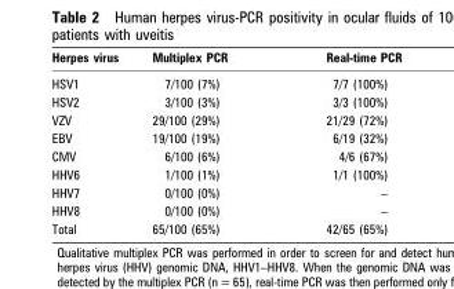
<table><thead><tr><td>Herpes virus</td><td>Multiplex PCR</td><td>Real-time PCR</td></tr></thead><tbody><tr><td>HSV1</td><td>7/100 (7%)</td><td>7/7 (100%)</td></tr><tr><td>HSV2</td><td>3/100 (3%)</td><td>3/3 (100%)</td></tr><tr><td>VZV</td><td>29/100 (29%)</td><td>21/29 (72%)</td></tr><tr><td>EBV</td><td>19/100 (19%)</td><td>6/19 (32%)</td></tr><tr><td>CMV</td><td>6/100 (6%)</td><td>4/6 (67%)</td></tr><tr><td>HHV6</td><td>1/100 (1%)</td><td>1/1 (100%)</td></tr><tr><td>HHV7</td><td>0/100 (0%)</td><td>–</td></tr><tr><td>HHV8</td><td>0/100 (0%)</td><td>–</td></tr><tr><td>Total</td><td>65/100 (65%)</td><td>42/65 (65%)</td></tr></tbody></table>